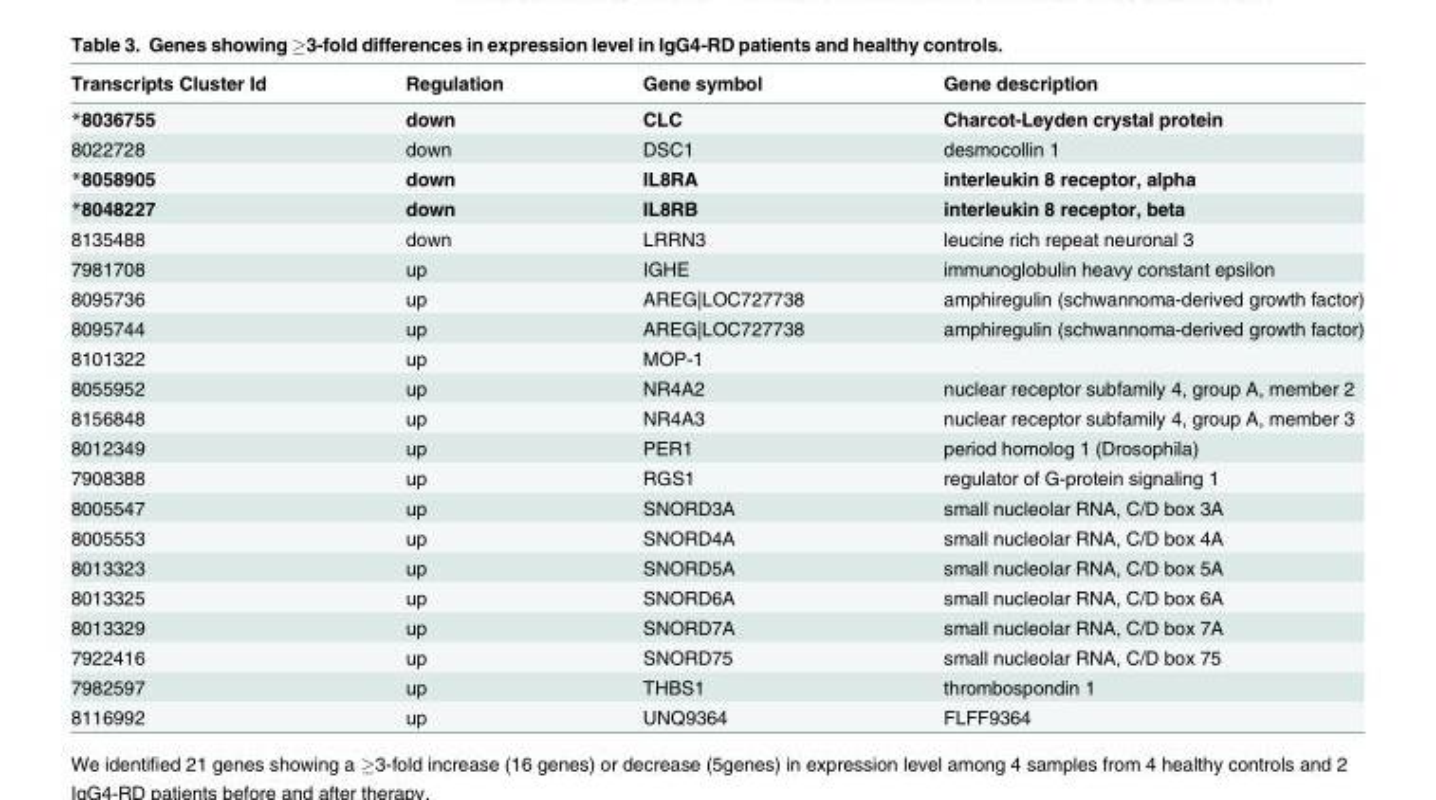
<table><thead><tr><td>Transcripts Cluster Id</td><td>Regulation</td><td>Gene symbol</td><td>Gene description</td></tr></thead><tbody><tr><td>*8036755</td><td>down</td><td>CLC</td><td>Charcot-Leyden crystal protein</td></tr><tr><td>8022728</td><td>down</td><td>DSC1</td><td>desmocollin 1</td></tr><tr><td>*8058905</td><td>down</td><td>IL8RA</td><td>interleukin 8 receptor, alpha</td></tr><tr><td>*8048227</td><td>down</td><td>IL8RB</td><td>interleukin 8 receptor, beta</td></tr><tr><td>8135488</td><td>down</td><td>LRRN3</td><td>leucine rich repeat neuronal 3</td></tr><tr><td>7981708</td><td>up</td><td>IGHE</td><td>immunoglobulin heavy constant epsilon</td></tr><tr><td>8095736</td><td>up</td><td>AREG|LOC727738</td><td>amphiregulin (schwannoma-derived growth factor)</td></tr><tr><td>8095744</td><td>up</td><td>AREG|LOC727738</td><td>amphiregulin (schwannoma-derived growth factor)</td></tr><tr><td>8101322</td><td>up</td><td>MOP-1</td><td></td></tr><tr><td>8055952</td><td>up</td><td>NR4A2</td><td>nuclear receptor subfamily 4, group A, member 2</td></tr><tr><td>8156848</td><td>up</td><td>NR4A3</td><td>nuclear receptor subfamily 4, group A, member 3</td></tr><tr><td>8012349</td><td>up</td><td>PER1</td><td>period homolog 1 (Drosophila)</td></tr><tr><td>7908388</td><td>up</td><td>RGS1</td><td>regulator of G-protein signaling 1</td></tr><tr><td>8005547</td><td>up</td><td>SNORD3A</td><td>small nucleolar RNA, C/D box 3A</td></tr><tr><td>8005553</td><td>up</td><td>SNORD4A</td><td>small nucleolar RNA, C/D box 4A</td></tr><tr><td>8013323</td><td>up</td><td>SNORD5A</td><td>small nucleolar RNA, C/D box 5A</td></tr><tr><td>8013325</td><td>up</td><td>SNORD6A</td><td>small nucleolar RNA, C/D box 6A</td></tr><tr><td>8013329</td><td>up</td><td>SNORD7A</td><td>small nucleolar RNA, C/D box 7A</td></tr><tr><td>7922416</td><td>up</td><td>SNORD75</td><td>small nucleolar RNA, C/D box 75</td></tr><tr><td>7982597</td><td>up</td><td>THBS1</td><td>thrombospondin 1</td></tr><tr><td>8116992</td><td>up</td><td>UNQ9364</td><td>FLFF9364</td></tr></tbody></table>